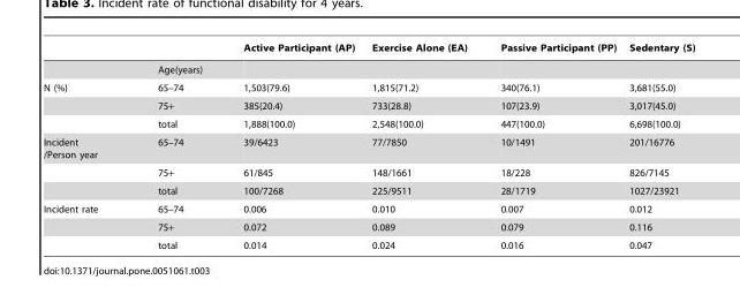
<table><thead><tr><td></td><td></td><td>Active Participant (AP)</td><td>Exercise Alone (EA)</td><td>Passive Participant (PP)</td><td>Sedentary (S)</td></tr></thead><tbody><tr><td></td><td>Age(years)</td><td></td><td></td><td></td><td></td></tr><tr><td rowspan="3">N (%)</td><td>65–74</td><td>1,503(79.6)</td><td>1,815(71.2)</td><td>340(76.1)</td><td>3,681(55.0)</td></tr><tr><td>75+</td><td>385(20.4)</td><td>733(28.8)</td><td>107(23.9)</td><td>3,017(45.0)</td></tr><tr><td>total</td><td>1,888(100.0)</td><td>2,548(100.0)</td><td>447(100.0)</td><td>6,698(100.0)</td></tr><tr><td rowspan="3">Incident /Person year</td><td>65–74</td><td>39/6423</td><td>77/7850</td><td>10/1491</td><td>201/16776</td></tr><tr><td>75+</td><td>61/845</td><td>148/1661</td><td>18/228</td><td>826/7145</td></tr><tr><td>total</td><td>100/7268</td><td>225/9511</td><td>28/1719</td><td>1027/23921</td></tr><tr><td rowspan="3">Incident rate</td><td>65–74</td><td>0.006</td><td>0.010</td><td>0.007</td><td>0.012</td></tr><tr><td>75+</td><td>0.072</td><td>0.089</td><td>0.079</td><td>0.116</td></tr><tr><td>total</td><td>0.014</td><td>0.024</td><td>0.016</td><td>0.047</td></tr></tbody></table>